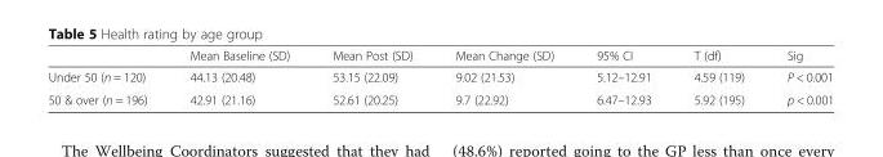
<table><thead><tr><td></td><td>Mean Baseline (SD)</td><td>Mean Post (SD)</td><td>Mean Change (SD)</td><td>95% CI</td><td>T (df)</td><td>Sig</td></tr></thead><tbody><tr><td>Under 50 (n = 120)</td><td>44.13 (20.48)</td><td>53.15 (22.09)</td><td>9.02 (21.53)</td><td>5.12–12.91</td><td>4.59 (119)</td><td>P &lt; 0.001</td></tr><tr><td>50 &amp; over (n = 196)</td><td>42.91 (21.16)</td><td>52.61 (20.25)</td><td>9.7 (22.92)</td><td>6.47–12.93</td><td>5.92 (195)</td><td>p &lt; 0.001</td></tr></tbody></table>